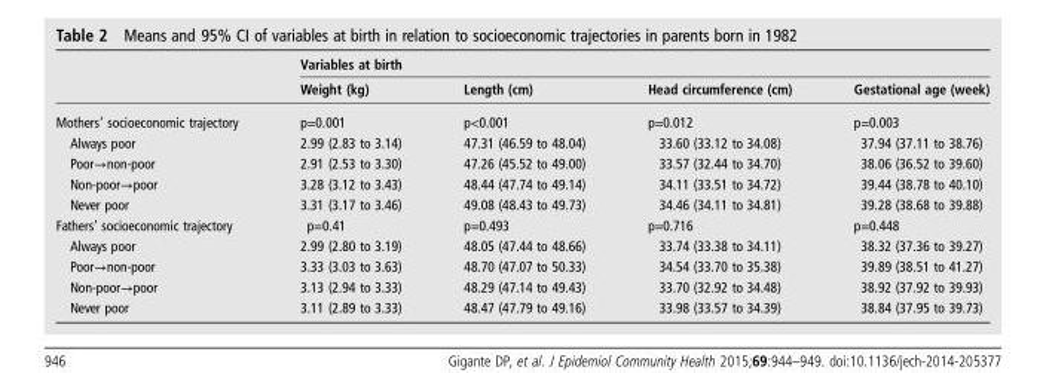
<table><thead><tr><td rowspan="2"></td><td colspan="4">Variables at birth</td></tr><tr><td>Weight (kg)</td><td>Length (cm)</td><td>Head circumference (cm)</td><td>Gestational age (week)</td></tr></thead><tbody><tr><td>Mothers’ socioeconomic trajectory</td><td>p=0.001</td><td>p&lt;0.001</td><td>p=0.012</td><td>p=0.003</td></tr><tr><td>Always poor</td><td>2.99 (2.83 to 3.14)</td><td>47.31 (46.59 to 48.04)</td><td>33.60 (33.12 to 34.08)</td><td>37.94 (37.11 to 38.76)</td></tr><tr><td>Poor→non-poor</td><td>2.91 (2.53 to 3.30)</td><td>47.26 (45.52 to 49.00)</td><td>33.57 (32.44 to 34.70)</td><td>38.06 (36.52 to 39.60)</td></tr><tr><td>Non-poor→poor</td><td>3.28 (3.12 to 3.43)</td><td>48.44 (47.74 to 49.14)</td><td>34.11 (33.51 to 34.72)</td><td>39.44 (38.78 to 40.10)</td></tr><tr><td>Never poor</td><td>3.31 (3.17 to 3.46)</td><td>49.08 (48.43 to 49.73)</td><td>34.46 (34.11 to 34.81)</td><td>39.28 (38.68 to 39.88)</td></tr><tr><td>Fathers’ socioeconomic trajectory</td><td>p=0.41</td><td>p=0.493</td><td>p=0.716</td><td>p=0.448</td></tr><tr><td>Always poor</td><td>2.99 (2.80 to 3.19)</td><td>48.05 (47.44 to 48.66)</td><td>33.74 (33.38 to 34.11)</td><td>38.32 (37.36 to 39.27)</td></tr><tr><td>Poor→non-poor</td><td>3.33 (3.03 to 3.63)</td><td>48.70 (47.07 to 50.33)</td><td>34.54 (33.70 to 35.38)</td><td>39.89 (38.51 to 41.27)</td></tr><tr><td>Non-poor→poor</td><td>3.13 (2.94 to 3.33)</td><td>48.29 (47.14 to 49.43)</td><td>33.70 (32.92 to 34.48)</td><td>38.92 (37.92 to 39.93)</td></tr><tr><td>Never poor</td><td>3.11 (2.89 to 3.33)</td><td>48.47 (47.79 to 49.16)</td><td>33.98 (33.57 to 34.39)</td><td>38.84 (37.95 to 39.73)</td></tr></tbody></table>